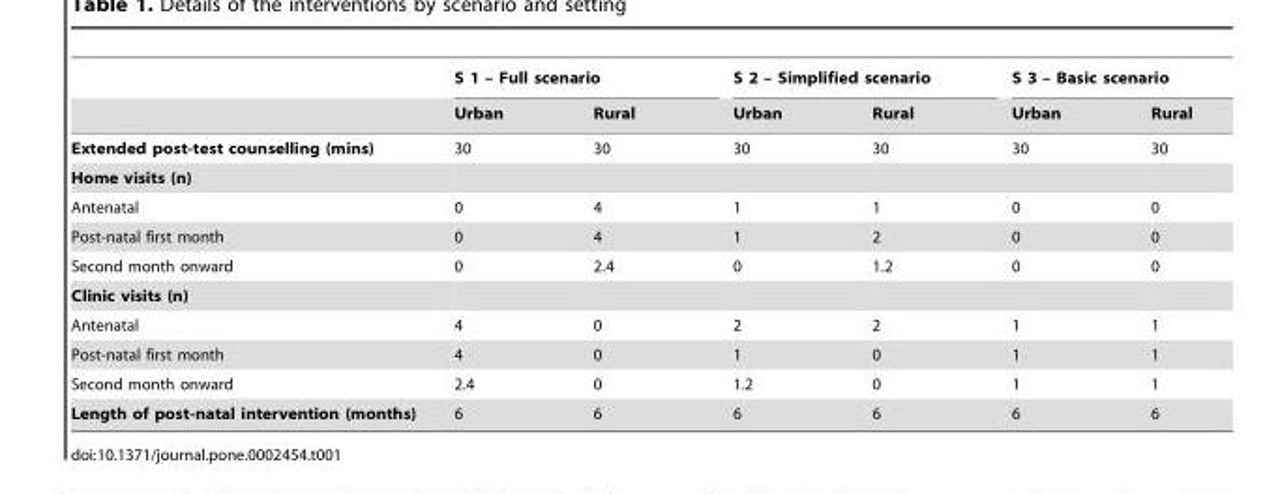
<table><thead><tr><td rowspan="2"></td><td colspan="2">S 1 – Full scenario</td><td colspan="2">S 2 – Simplified scenario</td><td colspan="2">S 3 – Basic scenario</td></tr><tr><td>Urban</td><td>Rural</td><td>Urban</td><td>Rural</td><td>Urban</td><td>Rural</td></tr></thead><tbody><tr><td>Extended post-test counselling (mins)</td><td>30</td><td>30</td><td>30</td><td>30</td><td>30</td><td>30</td></tr><tr><td colspan="7">Home visits (n)</td></tr><tr><td>Antenatal</td><td>0</td><td>4</td><td>1</td><td>1</td><td>0</td><td>0</td></tr><tr><td>Post-natal first month</td><td>0</td><td>4</td><td>1</td><td>2</td><td>0</td><td>0</td></tr><tr><td>Second month onward</td><td>0</td><td>2.4</td><td>0</td><td>1.2</td><td>0</td><td>0</td></tr><tr><td colspan="7">Clinic visits (n)</td></tr><tr><td>Antenatal</td><td>4</td><td>0</td><td>2</td><td>2</td><td>1</td><td>1</td></tr><tr><td>Post-natal first month</td><td>4</td><td>0</td><td>1</td><td>0</td><td>1</td><td>1</td></tr><tr><td>Second month onward</td><td>2.4</td><td>0</td><td>1.2</td><td>0</td><td>1</td><td>1</td></tr><tr><td>Length of post-natal intervention (months)</td><td>6</td><td>6</td><td>6</td><td>6</td><td>6</td><td>6</td></tr></tbody></table>